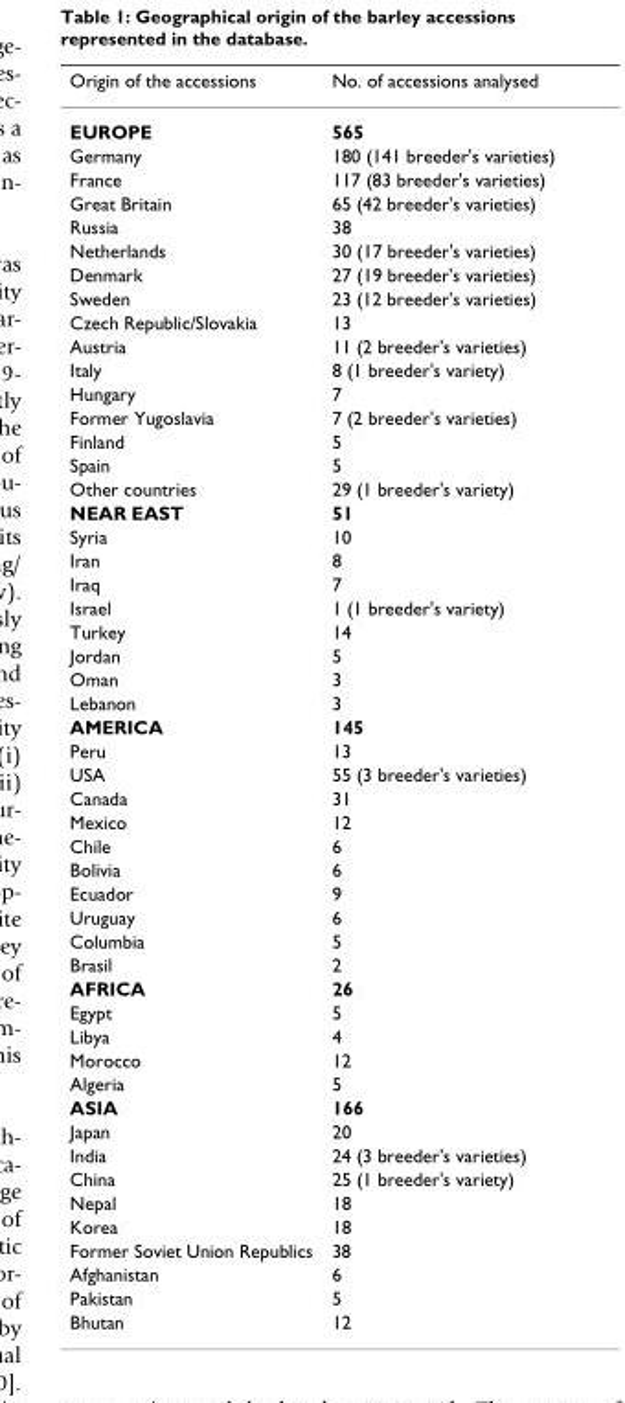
<table><thead><tr><td>Origin of the accessions</td><td>No. of accessions analysed</td></tr></thead><tbody><tr><td>EUROPE</td><td>565</td></tr><tr><td>Germany</td><td>180 (141 breeder&#x27;s varieties)</td></tr><tr><td>France</td><td>117 (83 breeder&#x27;s varieties)</td></tr><tr><td>Great Britain</td><td>65 (42 breeder&#x27;s varieties)</td></tr><tr><td>Russia</td><td>38</td></tr><tr><td>Netherlands</td><td>30 (17 breeder&#x27;s varieties)</td></tr><tr><td>Denmark</td><td>27 (19 breeder&#x27;s varieties)</td></tr><tr><td>Sweden</td><td>23 (12 breeder&#x27;s varieties)</td></tr><tr><td>Czech Republic/Slovakia</td><td>13</td></tr><tr><td>Austria</td><td>11 (2 breeder&#x27;s varieties)</td></tr><tr><td>Italy</td><td>8 (1 breeder&#x27;s variety)</td></tr><tr><td>Hungary</td><td>7</td></tr><tr><td>Former Yugoslavia</td><td>7 (2 breeder&#x27;s varieties)</td></tr><tr><td>Finland</td><td>5</td></tr><tr><td>Spain</td><td>5</td></tr><tr><td>Other countries</td><td>29 (1 breeder&#x27;s variety)</td></tr><tr><td>NEAR EAST</td><td>51</td></tr><tr><td>Syria</td><td>10</td></tr><tr><td>Iran</td><td>8</td></tr><tr><td>Iraq</td><td>7</td></tr><tr><td>Israel</td><td>1 (1 breeder&#x27;s variety)</td></tr><tr><td>Turkey</td><td>14</td></tr><tr><td>Jordan</td><td>5</td></tr><tr><td>Oman</td><td>3</td></tr><tr><td>Lebanon</td><td>3</td></tr><tr><td>AMERICA</td><td>145</td></tr><tr><td>Peru</td><td>13</td></tr><tr><td>USA</td><td>55 (3 breeder&#x27;s varieties)</td></tr><tr><td>Canada</td><td>31</td></tr><tr><td>Mexico</td><td>12</td></tr><tr><td>Chile</td><td>6</td></tr><tr><td>Bolivia</td><td>6</td></tr><tr><td>Ecuador</td><td>9</td></tr><tr><td>Uruguay</td><td>6</td></tr><tr><td>Columbia</td><td>5</td></tr><tr><td>Brasil</td><td>2</td></tr><tr><td>AFRICA</td><td>26</td></tr><tr><td>Egypt</td><td>5</td></tr><tr><td>Libya</td><td>4</td></tr><tr><td>Morocco</td><td>12</td></tr><tr><td>Algeria</td><td>5</td></tr><tr><td>ASIA</td><td>166</td></tr><tr><td>Japan</td><td>20</td></tr><tr><td>India</td><td>24 (3 breeder&#x27;s varieties)</td></tr><tr><td>China</td><td>25 (1 breeder&#x27;s variety)</td></tr><tr><td>Nepal</td><td>18</td></tr><tr><td>Korea</td><td>18</td></tr><tr><td>Former Soviet Union Republics</td><td>38</td></tr><tr><td>Afghanistan</td><td>6</td></tr><tr><td>Pakistan</td><td>5</td></tr><tr><td>Bhutan</td><td>12</td></tr></tbody></table>